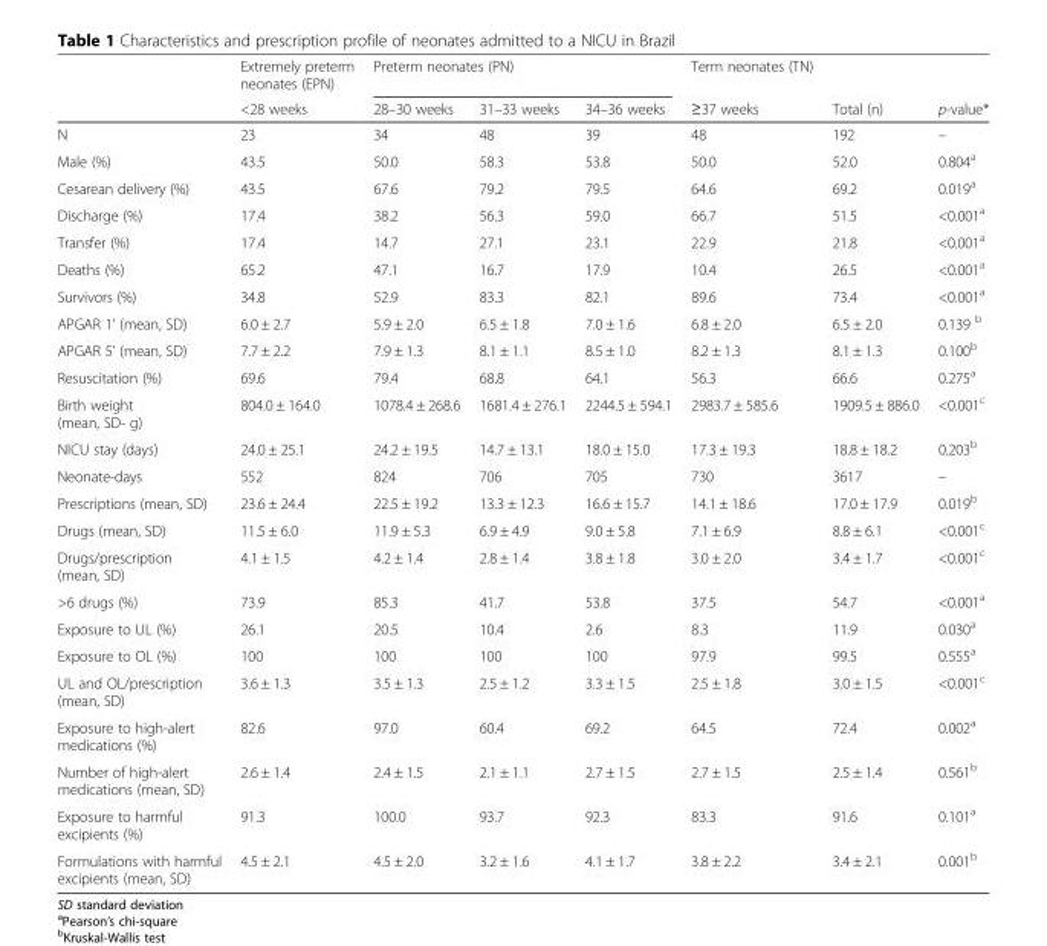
<table><thead><tr><td rowspan="2"></td><td rowspan="2">Extremely preterm neonates (EPN) &lt;28 weeks</td><td colspan="3">Preterm neonates (PN)</td><td rowspan="2">Term neonates (TN) ≥37 weeks</td><td rowspan="2">Total (n)</td><td rowspan="2">p-value*</td></tr><tr><td>28–30 weeks</td><td>31–33 weeks</td><td>34–36 weeks</td></tr></thead><tbody><tr><td>N</td><td>23</td><td>34</td><td>48</td><td>39</td><td>48</td><td>192</td><td>–</td></tr><tr><td>Male (%)</td><td>43.5</td><td>50.0</td><td>58.3</td><td>53.8</td><td>50.0</td><td>52.0</td><td>0.804<sup>a</sup></td></tr><tr><td>Cesarean delivery (%)</td><td>43.5</td><td>67.6</td><td>79.2</td><td>79.5</td><td>64.6</td><td>69.2</td><td>0.019<sup>a</sup></td></tr><tr><td>Discharge (%)</td><td>17.4</td><td>38.2</td><td>56.3</td><td>59.0</td><td>66.7</td><td>51.5</td><td>&lt;0.001<sup>a</sup></td></tr><tr><td>Transfer (%)</td><td>17.4</td><td>14.7</td><td>27.1</td><td>23.1</td><td>22.9</td><td>21.8</td><td>&lt;0.001<sup>a</sup></td></tr><tr><td>Deaths (%)</td><td>65.2</td><td>47.1</td><td>16.7</td><td>17.9</td><td>10.4</td><td>26.5</td><td>&lt;0.001<sup>a</sup></td></tr><tr><td>Survivors (%)</td><td>34.8</td><td>52.9</td><td>83.3</td><td>82.1</td><td>89.6</td><td>73.4</td><td>&lt;0.001<sup>a</sup></td></tr><tr><td>APGAR 1’ (mean, SD)</td><td>6.0 ± 2.7</td><td>5.9 ± 2.0</td><td>6.5 ± 1.8</td><td>7.0 ± 1.6</td><td>6.8 ± 2.0</td><td>6.5 ± 2.0</td><td>0.139 <sup>b</sup></td></tr><tr><td>APGAR 5’ (mean, SD)</td><td>7.7 ± 2.2</td><td>7.9 ± 1.3</td><td>8.1 ± 1.1</td><td>8.5 ± 1.0</td><td>8.2 ± 1.3</td><td>8.1 ± 1.3</td><td>0.100<sup>b</sup></td></tr><tr><td>Resuscitation (%)</td><td>69.6</td><td>79.4</td><td>68.8</td><td>64.1</td><td>56.3</td><td>66.6</td><td>0.275<sup>a</sup></td></tr><tr><td>Birth weight (mean, SD- g)</td><td>804.0 ± 164.0</td><td>1078.4 ± 268.6</td><td>1681.4 ± 276.1</td><td>2244.5 ± 594.1</td><td>2983.7 ± 585.6</td><td>1909.5 ± 886.0</td><td>&lt;0.001<sup>c</sup></td></tr><tr><td>NICU stay (days)</td><td>24.0 ± 25.1</td><td>24.2 ± 19.5</td><td>14.7 ± 13.1</td><td>18.0 ± 15.0</td><td>17.3 ± 19.3</td><td>18.8 ± 18.2</td><td>0.203<sup>b</sup></td></tr><tr><td>Neonate-days</td><td>552</td><td>824</td><td>706</td><td>705</td><td>730</td><td>3617</td><td>–</td></tr><tr><td>Prescriptions (mean, SD)</td><td>23.6 ± 24.4</td><td>22.5 ± 19.2</td><td>13.3 ± 12.3</td><td>16.6 ± 15.7</td><td>14.1 ± 18.6</td><td>17.0 ± 17.9</td><td>0.019<sup>b</sup></td></tr><tr><td>Drugs (mean, SD)</td><td>11.5 ± 6.0</td><td>11.9 ± 5.3</td><td>6.9 ± 4.9</td><td>9.0 ± 5.8</td><td>7.1 ± 6.9</td><td>8.8 ± 6.1</td><td>&lt;0.001<sup>c</sup></td></tr><tr><td>Drugs/prescription (mean, SD)</td><td>4.1 ± 1.5</td><td>4.2 ± 1.4</td><td>2.8 ± 1.4</td><td>3.8 ± 1.8</td><td>3.0 ± 2.0</td><td>3.4 ± 1.7</td><td>&lt;0.001<sup>c</sup></td></tr><tr><td>&gt;6 drugs (%)</td><td>73.9</td><td>85.3</td><td>41.7</td><td>53.8</td><td>37.5</td><td>54.7</td><td>&lt;0.001<sup>a</sup></td></tr><tr><td>Exposure to UL (%)</td><td>26.1</td><td>20.5</td><td>10.4</td><td>2.6</td><td>8.3</td><td>11.9</td><td>0.030<sup>a</sup></td></tr><tr><td>Exposure to OL (%)</td><td>100</td><td>100</td><td>100</td><td>100</td><td>97.9</td><td>99.5</td><td>0.555<sup>a</sup></td></tr><tr><td>UL and OL/prescription (mean, SD)</td><td>3.6 ± 1.3</td><td>3.5 ± 1.3</td><td>2.5 ± 1.2</td><td>3.3 ± 1.5</td><td>2.5 ± 1.8</td><td>3.0 ± 1.5</td><td>&lt;0.001<sup>c</sup></td></tr><tr><td>Exposure to high-alert medications (%)</td><td>82.6</td><td>97.0</td><td>60.4</td><td>69.2</td><td>64.5</td><td>72.4</td><td>0.002<sup>a</sup></td></tr><tr><td>Number of high-alert medications (mean, SD)</td><td>2.6 ± 1.4</td><td>2.4 ± 1.5</td><td>2.1 ± 1.1</td><td>2.7 ± 1.5</td><td>2.7 ± 1.5</td><td>2.5 ± 1.4</td><td>0.561<sup>b</sup></td></tr><tr><td>Exposure to harmful excipients (%)</td><td>91.3</td><td>100.0</td><td>93.7</td><td>92.3</td><td>83.3</td><td>91.6</td><td>0.101<sup>a</sup></td></tr><tr><td>Formulations with harmful excipients (mean, SD)</td><td>4.5 ± 2.1</td><td>4.5 ± 2.0</td><td>3.2 ± 1.6</td><td>4.1 ± 1.7</td><td>3.8 ± 2.2</td><td>3.4 ± 2.1</td><td>0.001<sup>b</sup></td></tr></tbody></table>